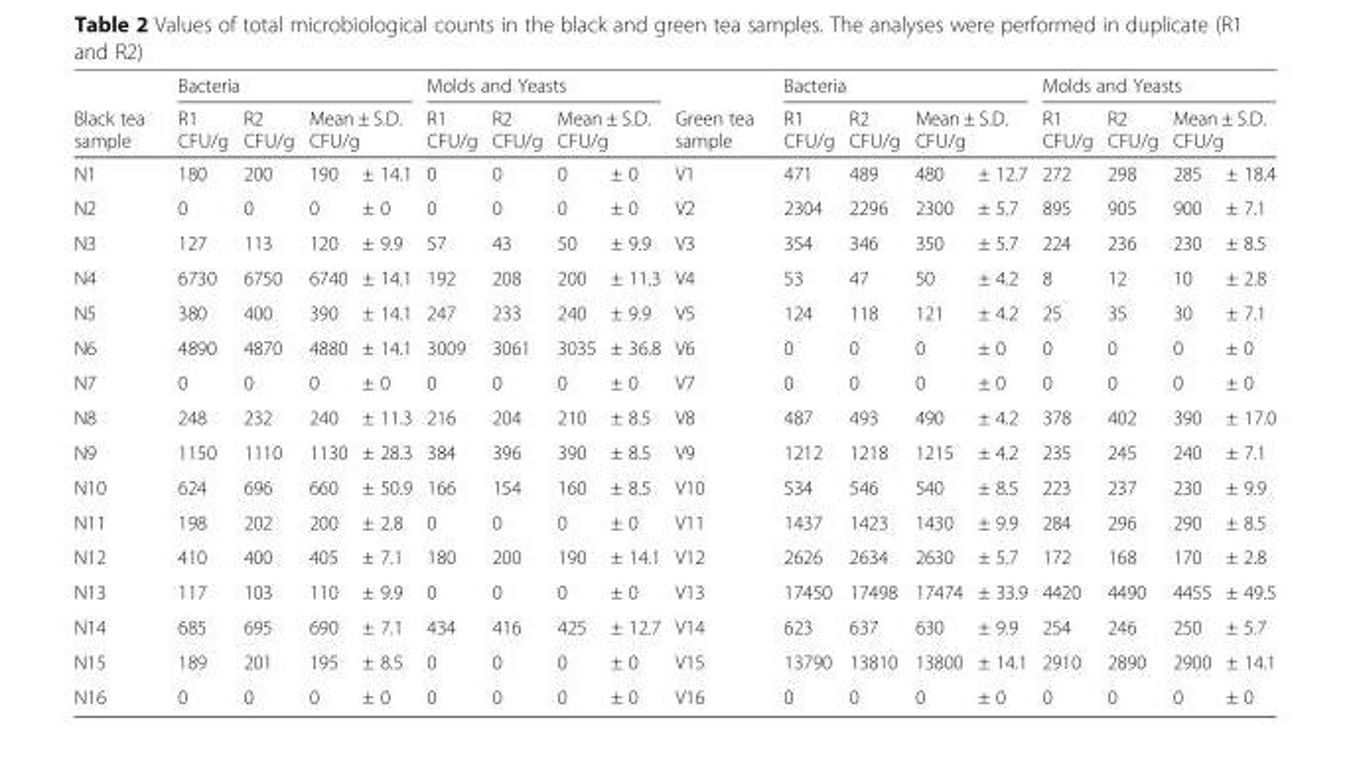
<table><thead><tr><td rowspan="3">Black tea sample N1</td><td colspan="4">Bacteria</td><td colspan="4">Molds and Yeasts</td><td rowspan="3">Green tea sample V1</td><td colspan="4">Bacteria</td><td colspan="4">Molds and Yeasts</td></tr><tr><td rowspan="2">R1 CFU/g 180</td><td rowspan="2">R2 CFU/g 200</td><td colspan="2">Mean ± S.D. CFU/g</td><td rowspan="2">R1 CFU/g 0</td><td rowspan="2">R2 CFU/g 0</td><td colspan="2">Mean ± S.D. CFU/g</td><td rowspan="2">R1 CFU/g 471</td><td rowspan="2">R2 CFU/g 489</td><td colspan="2">Mean ± S.D. CFU/g</td><td rowspan="2">R1 CFU/g 272</td><td rowspan="2">R2 CFU/g 298</td><td colspan="2">Mean ± S.D. CFU/g</td></tr><tr><td>190</td><td>± 14.1</td><td>0</td><td>± 0</td><td>480</td><td>± 12.7</td><td>285</td><td>± 18.4</td></tr></thead><tbody><tr><td>N2</td><td>0</td><td>0</td><td>0</td><td>± 0</td><td>0</td><td>0</td><td>0</td><td>± 0</td><td>V2</td><td>2304</td><td>2296</td><td>2300</td><td>± 5.7</td><td>895</td><td>905</td><td>900</td><td>± 7.1</td></tr><tr><td>N3</td><td>127</td><td>113</td><td>120</td><td>± 9.9</td><td>57</td><td>43</td><td>50</td><td>± 9.9</td><td>V3</td><td>354</td><td>346</td><td>350</td><td>± 5.7</td><td>224</td><td>236</td><td>230</td><td>± 8.5</td></tr><tr><td>N4</td><td>6730</td><td>6750</td><td>6740</td><td>± 14.1</td><td>192</td><td>208</td><td>200</td><td>± 11.3</td><td>V4</td><td>53</td><td>47</td><td>50</td><td>± 4.2</td><td>8</td><td>12</td><td>10</td><td>± 2.8</td></tr><tr><td>N5</td><td>380</td><td>400</td><td>390</td><td>± 14.1</td><td>247</td><td>233</td><td>240</td><td>± 9.9</td><td>V5</td><td>124</td><td>118</td><td>121</td><td>± 4.2</td><td>25</td><td>35</td><td>30</td><td>± 7.1</td></tr><tr><td>N6</td><td>4890</td><td>4870</td><td>4880</td><td>± 14.1</td><td>3009</td><td>3061</td><td>3035</td><td>± 36.8</td><td>V6</td><td>0</td><td>0</td><td>0</td><td>± 0</td><td>0</td><td>0</td><td>0</td><td>± 0</td></tr><tr><td>N7</td><td>0</td><td>0</td><td>0</td><td>± 0</td><td>0</td><td>0</td><td>0</td><td>± 0</td><td>V7</td><td>0</td><td>0</td><td>0</td><td>± 0</td><td>0</td><td>0</td><td>0</td><td>± 0</td></tr><tr><td>N8</td><td>248</td><td>232</td><td>240</td><td>± 11.3</td><td>216</td><td>204</td><td>210</td><td>± 8.5</td><td>V8</td><td>487</td><td>493</td><td>490</td><td>± 4.2</td><td>378</td><td>402</td><td>390</td><td>± 17.0</td></tr><tr><td>N9</td><td>1150</td><td>1110</td><td>1130</td><td>± 28.3</td><td>384</td><td>396</td><td>390</td><td>± 8.5</td><td>V9</td><td>1212</td><td>1218</td><td>1215</td><td>± 4.2</td><td>235</td><td>245</td><td>240</td><td>± 7.1</td></tr><tr><td>N10</td><td>624</td><td>696</td><td>660</td><td>± 50.9</td><td>166</td><td>154</td><td>160</td><td>± 8.5</td><td>V10</td><td>534</td><td>546</td><td>540</td><td>± 8.5</td><td>223</td><td>237</td><td>230</td><td>± 9.9</td></tr><tr><td>N11</td><td>198</td><td>202</td><td>200</td><td>± 2.8</td><td>0</td><td>0</td><td>0</td><td>± 0</td><td>V11</td><td>1437</td><td>1423</td><td>1430</td><td>± 9.9</td><td>284</td><td>296</td><td>290</td><td>± 8.5</td></tr><tr><td>N12</td><td>410</td><td>400</td><td>405</td><td>± 7.1</td><td>180</td><td>200</td><td>190</td><td>± 14.1</td><td>V12</td><td>2626</td><td>2634</td><td>2630</td><td>± 5.7</td><td>172</td><td>168</td><td>170</td><td>± 2.8</td></tr><tr><td>N13</td><td>117</td><td>103</td><td>110</td><td>± 9.9</td><td>0</td><td>0</td><td>0</td><td>± 0</td><td>V13</td><td>17450</td><td>17498</td><td>17474</td><td>± 33.9</td><td>4420</td><td>4490</td><td>4455</td><td>± 49.5</td></tr><tr><td>N14</td><td>685</td><td>695</td><td>690</td><td>± 7.1</td><td>434</td><td>416</td><td>425</td><td>± 12.7</td><td>V14</td><td>623</td><td>637</td><td>630</td><td>± 9.9</td><td>254</td><td>246</td><td>250</td><td>± 5.7</td></tr><tr><td>N15</td><td>189</td><td>201</td><td>195</td><td>± 8.5</td><td>0</td><td>0</td><td>0</td><td>± 0</td><td>V15</td><td>13790</td><td>13810</td><td>13800</td><td>± 14.1</td><td>2910</td><td>2890</td><td>2900</td><td>± 14.1</td></tr><tr><td>N16</td><td>0</td><td>0</td><td>0</td><td>± 0</td><td>0</td><td>0</td><td>0</td><td>± 0</td><td>V16</td><td>0</td><td>0</td><td>0</td><td>± 0</td><td>0</td><td>0</td><td>0</td><td>± 0</td></tr></tbody></table>